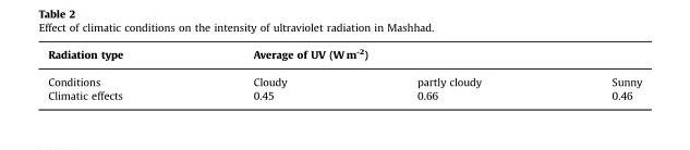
<table><thead><tr><td rowspan="2">Radiation type Conditions</td><td colspan="3">Average of UV (W m<sup>-2</sup>)</td></tr><tr><td>Cloudy</td><td>partly cloudy</td><td>Sunny</td></tr></thead><tbody><tr><td>Climatic effects</td><td>0.45</td><td>0.66</td><td>0.46</td></tr></tbody></table>